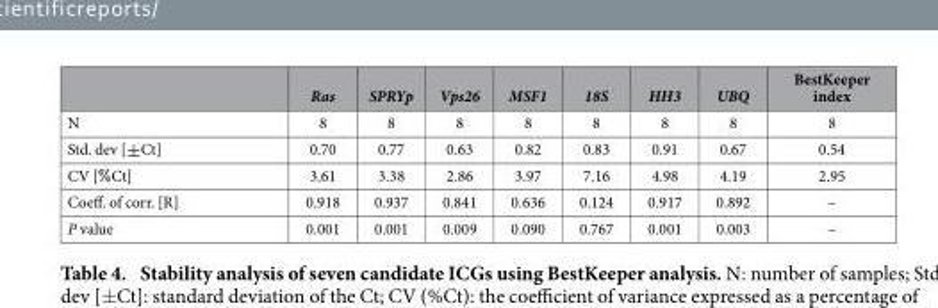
<table><thead><tr><td></td><td>Ras</td><td>SPRYp</td><td>Vps26</td><td>MSF1</td><td>18S</td><td>HH3</td><td>UBQ</td><td>BestKeeper index</td></tr></thead><tbody><tr><td>N</td><td>8</td><td>8</td><td>8</td><td>8</td><td>8</td><td>8</td><td>8</td><td>8</td></tr><tr><td>Std. dev [±Ct]</td><td>0.70</td><td>0.77</td><td>0.63</td><td>0.82</td><td>0.83</td><td>0.91</td><td>0.67</td><td>0.54</td></tr><tr><td>CV [%Ct]</td><td>3.61</td><td>3.38</td><td>2.86</td><td>3.97</td><td>7.16</td><td>4.98</td><td>4.19</td><td>2.95</td></tr><tr><td>Coeff. of corr. [R]</td><td>0.918</td><td>0.937</td><td>0.841</td><td>0.636</td><td>0.124</td><td>0.917</td><td>0.892</td><td>–</td></tr><tr><td>P value</td><td>0.001</td><td>0.001</td><td>0.009</td><td>0.090</td><td>0.767</td><td>0.001</td><td>0.003</td><td>–</td></tr></tbody></table>